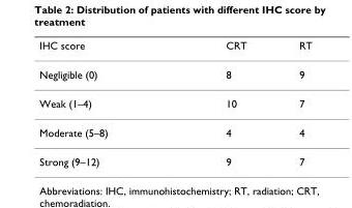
<table><thead><tr><td>IHC score</td><td>CRT</td><td>RT</td></tr></thead><tbody><tr><td>Negligible (0)</td><td>8</td><td>9</td></tr><tr><td>Weak (1–4)</td><td>10</td><td>7</td></tr><tr><td>Moderate (5–8)</td><td>4</td><td>4</td></tr><tr><td>Strong (9–12)</td><td>9</td><td>7</td></tr></tbody></table>